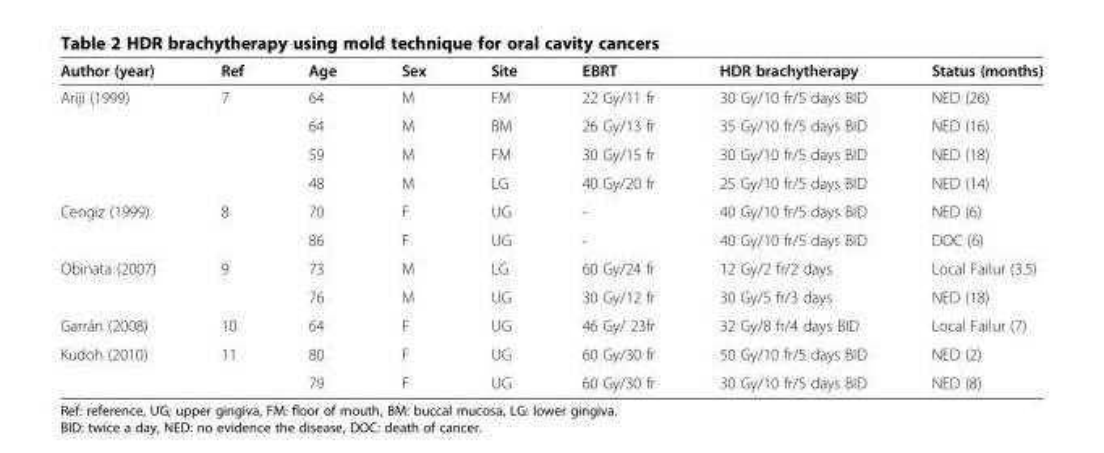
<table><thead><tr><td>Author (year)</td><td>Ref</td><td>Age</td><td>Sex</td><td>Site</td><td>EBRT</td><td>HDR brachytherapy</td><td>Status (months)</td></tr></thead><tbody><tr><td rowspan="4">Ariji (1999)</td><td>7</td><td>64</td><td>M</td><td>FM</td><td>22 Gy/11 fr</td><td>30 Gy/10 fr/5 days BID</td><td>NED (26)</td></tr><tr><td></td><td>64</td><td>M</td><td>BM</td><td>26 Gy/13 fr</td><td>35 Gy/10 fr/5 days BID</td><td>NED (16)</td></tr><tr><td></td><td>59</td><td>M</td><td>FM</td><td>30 Gy/15 fr</td><td>30 Gy/10 fr/5 days BID</td><td>NED (18)</td></tr><tr><td></td><td>48</td><td>M</td><td>LG</td><td>40 Gy/20 fr</td><td>25 Gy/10 fr/5 days BID</td><td>NED (14)</td></tr><tr><td rowspan="2">Cengiz (1999)</td><td>8</td><td>70</td><td>F</td><td>UG</td><td>-</td><td>40 Gy/10 fr/5 days BID</td><td>NED (6)</td></tr><tr><td></td><td>86</td><td>F</td><td>UG</td><td>-</td><td>40 Gy/10 fr/5 days BID</td><td>DOC (6)</td></tr><tr><td rowspan="2">Obinata (2007)</td><td>9</td><td>73</td><td>M</td><td>LG</td><td>60 Gy/24 fr</td><td>12 Gy/2 fr/2 days</td><td>Local Failur (3.5)</td></tr><tr><td></td><td>76</td><td>M</td><td>UG</td><td>30 Gy/12 fr</td><td>30 Gy/5 fr/3 days</td><td>NED (18)</td></tr><tr><td>Garrán (2008)</td><td>10</td><td>64</td><td>F</td><td>UG</td><td>46 Gy/ 23fr</td><td>32 Gy/8 fr/4 days BID</td><td>Local Failur (7)</td></tr><tr><td rowspan="2">Kudoh (2010)</td><td>11</td><td>80</td><td>F</td><td>UG</td><td>60 Gy/30 fr</td><td>50 Gy/10 fr/5 days BID</td><td>NED (2)</td></tr><tr><td></td><td>79</td><td>F</td><td>UG</td><td>60 Gy/30 fr</td><td>30 Gy/10 fr/5 days BID</td><td>NED (8)</td></tr></tbody></table>